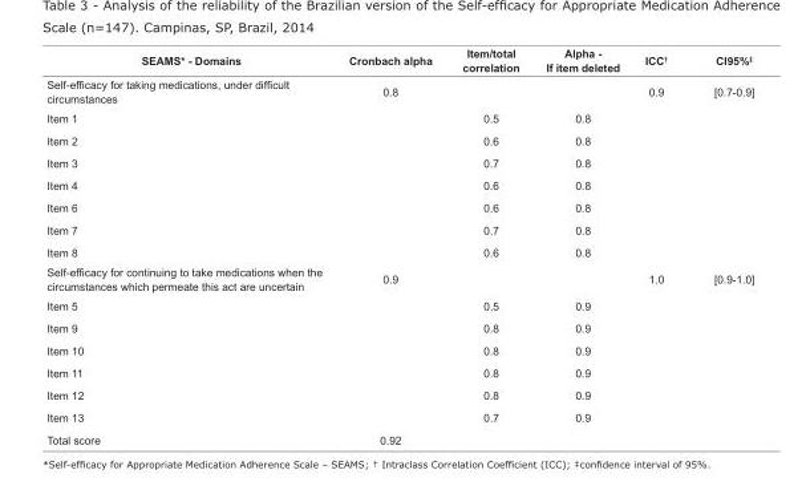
<table><tbody><tr><td>SEAMS* - Domains</td><td>Cronbach alpha</td><td>Item/total correlation</td><td>Alpha - If item deleted</td><td>ICC<sup>†</sup></td><td>CI95%<sup>‡</sup></td></tr><tr><td>Self-efficacy for taking medications, under difficult circumstances</td><td>0.8</td><td></td><td></td><td>0.9</td><td>[0.7-0.9]</td></tr><tr><td>Item 1</td><td></td><td>0.5</td><td>0.8</td><td></td><td></td></tr><tr><td>Item 2</td><td></td><td>0.6</td><td>0.8</td><td></td><td></td></tr><tr><td>Item 3</td><td></td><td>0.7</td><td>0.8</td><td></td><td></td></tr><tr><td>Item 4</td><td></td><td>0.6</td><td>0.8</td><td></td><td></td></tr><tr><td>Item 6</td><td></td><td>0.6</td><td>0.8</td><td></td><td></td></tr><tr><td>Item 7</td><td></td><td>0.7</td><td>0.8</td><td></td><td></td></tr><tr><td>Item 8</td><td></td><td>0.6</td><td>0.8</td><td></td><td></td></tr><tr><td>Self-efficacy for continuing to take medications when the circumstances which permeate this act are uncertain</td><td>0.9</td><td></td><td></td><td>1.0</td><td>[0.9-1.0]</td></tr><tr><td>Item 5</td><td></td><td>0.5</td><td>0.9</td><td></td><td></td></tr><tr><td>Item 9</td><td></td><td>0.8</td><td>0.9</td><td></td><td></td></tr><tr><td>Item 10</td><td></td><td>0.8</td><td>0.9</td><td></td><td></td></tr><tr><td>Item 11</td><td></td><td>0.8</td><td>0.9</td><td></td><td></td></tr><tr><td>Item 12</td><td></td><td>0.8</td><td>0.9</td><td></td><td></td></tr><tr><td>Item 13</td><td></td><td>0.7</td><td>0.9</td><td></td><td></td></tr><tr><td>Total score</td><td>0.92</td><td></td><td></td><td></td><td></td></tr></tbody></table>